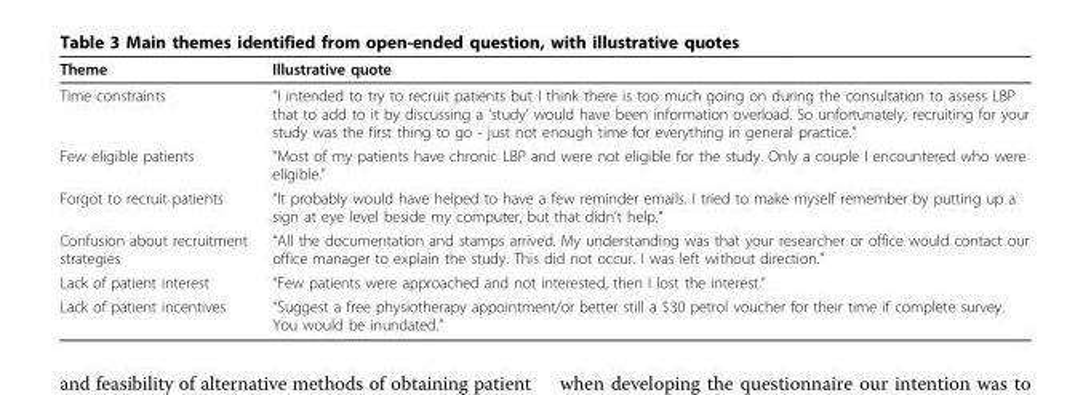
<table><thead><tr><td>Theme</td><td>Illustrative quote</td></tr></thead><tbody><tr><td>Time constraints</td><td>“I intended to try to recruit patients but I think there is too much going on during the consultation to assess LBP that to add to it by discussing a ‘study’ would have been information overload. So unfortunately, recruiting for your study was the first thing to go - just not enough time for everything in general practice.”</td></tr><tr><td>Few eligible patients</td><td>“Most of my patients have chronic LBP and were not eligible for the study. Only a couple I encountered who were eligible.”</td></tr><tr><td>Forgot to recruit patients</td><td>“It probably would have helped to have a few reminder emails. I tried to make myself remember by putting up a sign at eye level beside my computer, but that didn’t help.”</td></tr><tr><td>Confusion about recruitment strategies</td><td>“All the documentation and stamps arrived. My understanding was that your researcher or office would contact our office manager to explain the study. This did not occur. I was left without direction.”</td></tr><tr><td>Lack of patient interest</td><td>“Few patients were approached and not interested, then I lost the interest.”</td></tr><tr><td>Lack of patient incentives</td><td>“Suggest a free physiotherapy appointment/or better still a $30 petrol voucher for their time if complete survey. You would be inundated.”</td></tr></tbody></table>